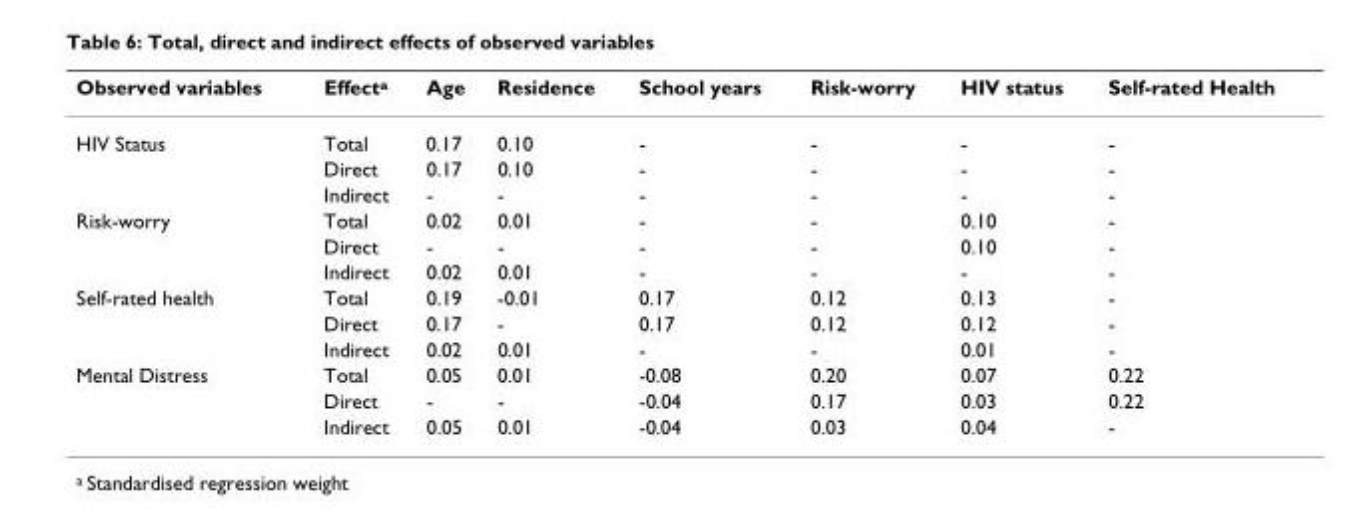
<table><thead><tr><td>Observed variables</td><td>Effect<sup>a</sup></td><td>Age</td><td>Residence</td><td>School years</td><td>Risk-worry</td><td>HIV status</td><td>Self-rated Health</td></tr></thead><tbody><tr><td rowspan="3">HIV Status</td><td>Total</td><td>0.17</td><td>0.10</td><td>-</td><td>-</td><td>-</td><td>-</td></tr><tr><td>Direct</td><td>0.17</td><td>0.10</td><td>-</td><td>-</td><td>-</td><td>-</td></tr><tr><td>Indirect</td><td>-</td><td>-</td><td>-</td><td>-</td><td>-</td><td>-</td></tr><tr><td rowspan="3">Risk-worry</td><td>Total</td><td>0.02</td><td>0.01</td><td>-</td><td>-</td><td>0.10</td><td>-</td></tr><tr><td>Direct</td><td>-</td><td>-</td><td>-</td><td>-</td><td>0.10</td><td>-</td></tr><tr><td>Indirect</td><td>0.02</td><td>0.01</td><td>-</td><td>-</td><td>-</td><td>-</td></tr><tr><td rowspan="3">Self-rated health</td><td>Total</td><td>0.19</td><td>-0.01</td><td>0.17</td><td>0.12</td><td>0.13</td><td>-</td></tr><tr><td>Direct</td><td>0.17</td><td>-</td><td>0.17</td><td>0.12</td><td>0.12</td><td>-</td></tr><tr><td>Indirect</td><td>0.02</td><td>0.01</td><td>-</td><td>-</td><td>0.01</td><td>-</td></tr><tr><td rowspan="3">Mental Distress</td><td>Total</td><td>0.05</td><td>0.01</td><td>-0.08</td><td>0.20</td><td>0.07</td><td>0.22</td></tr><tr><td>Direct</td><td>-</td><td>-</td><td>-0.04</td><td>0.17</td><td>0.03</td><td>0.22</td></tr><tr><td>Indirect</td><td>0.05</td><td>0.01</td><td>-0.04</td><td>0.03</td><td>0.04</td><td>-</td></tr></tbody></table>